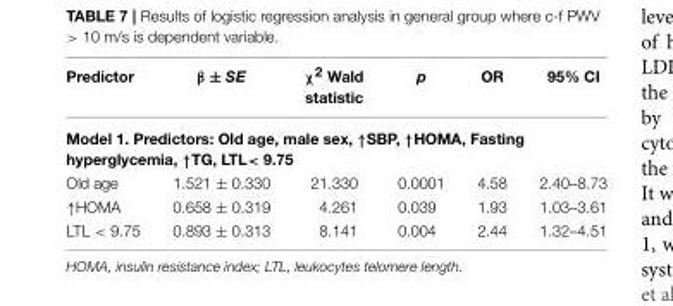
<table><thead><tr><td>Predictor</td><td>β ± SE</td><td>χ<sup>2</sup> Wald statistic</td><td>p</td><td>OR</td><td>95% CI</td></tr></thead><tbody><tr><td colspan="6">Model 1. Predictors: Old age, male sex, ↑SBP, ↑HOMA, Fasting hyperglycemia, ↑TG, LTL&lt; 9.75</td></tr><tr><td>Old age</td><td>1.521 ± 0.330</td><td>21.330</td><td>0.0001</td><td>4.58</td><td>2.40–8.73</td></tr><tr><td>↑HOMA</td><td>0.658 ± 0.319</td><td>4.261</td><td>0.039</td><td>1.93</td><td>1.03–3.61</td></tr><tr><td>LTL &lt; 9.75</td><td>0.893 ± 0.313</td><td>8.141</td><td>0.004</td><td>2.44</td><td>1.32–4.51</td></tr></tbody></table>